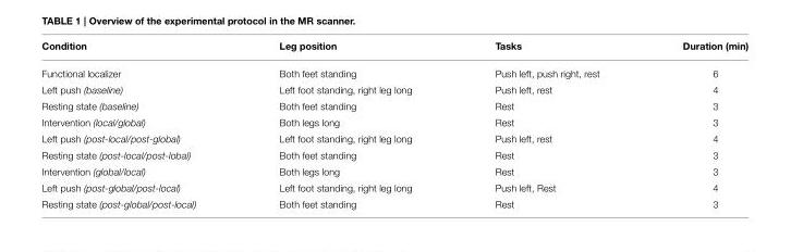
<table><thead><tr><td>Condition</td><td>Leg position</td><td>Tasks</td><td>Duration (min)</td></tr></thead><tbody><tr><td>Functional localizer</td><td>Both feet standing</td><td>Push left, push right, rest</td><td>6</td></tr><tr><td>Left push (baseline)</td><td>Left foot standing, right leg long</td><td>Push left, rest</td><td>4</td></tr><tr><td>Resting state (baseline)</td><td>Both feet standing</td><td>Rest</td><td>3</td></tr><tr><td>Intervention (local/global)</td><td>Both legs long</td><td>Rest</td><td>3</td></tr><tr><td>Left push (post-local/post-global)</td><td>Left foot standing, right leg long</td><td>Push left, rest</td><td>4</td></tr><tr><td>Resting state (post-local/post-lobal)</td><td>Both feet standing</td><td>Rest</td><td>3</td></tr><tr><td>Intervention (global/local)</td><td>Both legs long</td><td>Rest</td><td>3</td></tr><tr><td>Left push (post-global/post-local)</td><td>Left foot standing, right leg long</td><td>Push left, Rest</td><td>4</td></tr><tr><td>Resting state (post-global/post-local)</td><td>Both feet standing</td><td>Rest</td><td>3</td></tr></tbody></table>